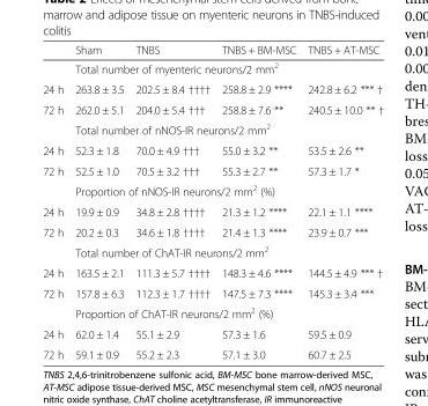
<table><thead><tr><td></td><td>Sham</td><td>TNBS</td><td>TNBS + BM-MSC</td><td>TNBS + AT-MSC</td></tr></thead><tbody><tr><td></td><td colspan="4">Total number of myenteric neurons/2 mm<sup>2</sup></td></tr><tr><td>24 h</td><td>263.8 ± 3.5</td><td>202.5 ± 8.4 ††††</td><td>258.8 ± 2.9 ****</td><td>242.8 ± 6.2 *** †</td></tr><tr><td rowspan="2">72 h</td><td>262.0 ± 5.1</td><td>204.0 ± 5.4 †††</td><td>258.8 ± 7.6 **</td><td>240.5 ± 10.0 ** †</td></tr><tr><td colspan="4">Total number of nNOS-IR neurons/2 mm<sup>2</sup></td></tr><tr><td>24 h</td><td>52.3 ± 1.8</td><td>70.0 ± 4.9 †††</td><td>55.0 ± 3.2 **</td><td>53.5 ± 2.6 **</td></tr><tr><td rowspan="2">72 h</td><td>52.5 ± 1.0</td><td>70.5 ± 3.2 †††</td><td>55.3 ± 2.7 **</td><td>57.3 ± 1.7 *</td></tr><tr><td colspan="4">Proportion of nNOS-IR neurons/2 mm<sup>2</sup> (%)</td></tr><tr><td>24 h</td><td>19.9 ± 0.9</td><td>34.8 ± 2.8 ††††</td><td>21.3 ± 1.2 ****</td><td>22.1 ± 1.1 ****</td></tr><tr><td rowspan="2">72 h</td><td>20.2 ± 0.3</td><td>34.6 ± 1.8 ††††</td><td>21.4 ± 1.3 ****</td><td>23.9 ± 0.7 ***</td></tr><tr><td colspan="4">Total number of ChAT-IR neurons/2 mm<sup>2</sup></td></tr><tr><td>24 h</td><td>163.5 ± 2.1</td><td>111.3 ± 5.7 ††††</td><td>148.3 ± 4.6 ****</td><td>144.5 ± 4.9 *** †</td></tr><tr><td rowspan="2">72 h</td><td>157.8 ± 6.3</td><td>112.3 ± 1.7 ††††</td><td>147.5 ± 7.3 ****</td><td>145.3 ± 3.4 ***</td></tr><tr><td colspan="4">Proportion of ChAT-IR neurons/2 mm<sup>2</sup> (%)</td></tr><tr><td>24 h</td><td>62.0 ± 1.4</td><td>55.1 ± 2.9</td><td>57.3 ± 1.6</td><td>59.5 ± 0.9</td></tr><tr><td>72 h</td><td>59.1 ± 0.9</td><td>55.2 ± 2.3</td><td>57.1 ± 3.0</td><td>60.7 ± 2.5</td></tr></tbody></table>